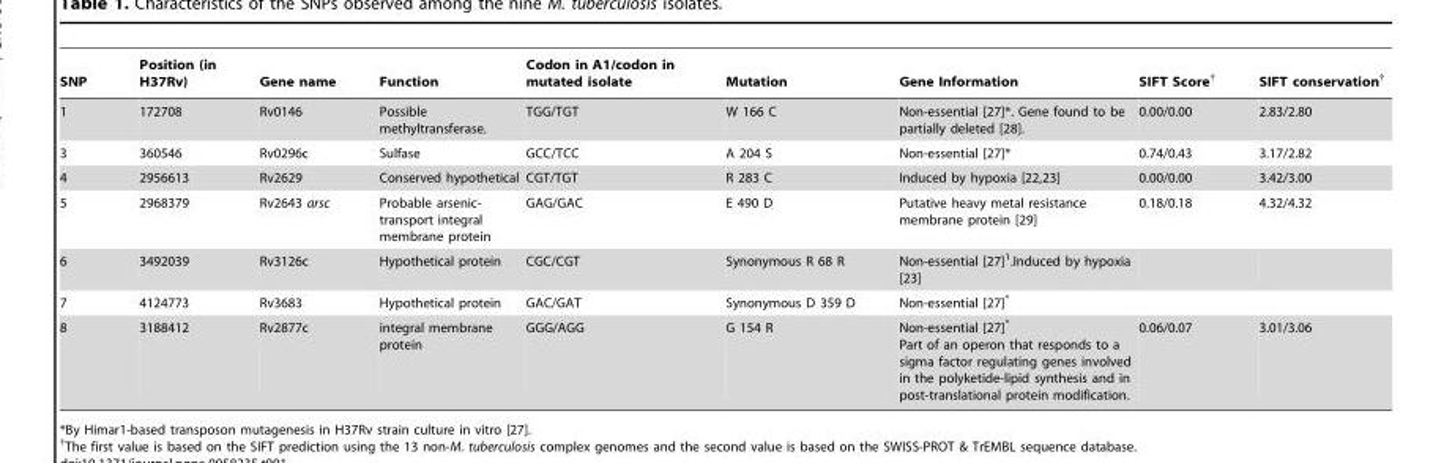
<table><thead><tr><td>SNP</td><td>Position (in H37Rv)</td><td>Gene name</td><td>Function</td><td>Codon in A1/codon in mutated isolate</td><td>Mutation</td><td>Gene Information</td><td>SIFT Score†</td><td>SIFT conservation†</td></tr></thead><tbody><tr><td>1</td><td>172708</td><td>Rv0146</td><td>Possible methyltransferase.</td><td>TGG/TGT</td><td>W 166 C</td><td>Non-essential [27]*. Gene found to be partially deleted [28].</td><td>0.00/0.00</td><td>2.83/2.80</td></tr><tr><td>3</td><td>360546</td><td>Rv0296c</td><td>Sulfase</td><td>GCC/TCC</td><td>A 204 S</td><td>Non-essential [27]*</td><td>0.74/0.43</td><td>3.17/2.82</td></tr><tr><td>4</td><td>2956613</td><td>Rv2629</td><td>Conserved hypothetical</td><td>CGT/TGT</td><td>R 283 C</td><td>Induced by hypoxia [22,23]</td><td>0.00/0.00</td><td>3.42/3.00</td></tr><tr><td>5</td><td>2968379</td><td>Rv2643 arsc</td><td>Probable arsenic- transport integral membrane protein</td><td>GAG/GAC</td><td>E 490 D</td><td>Putative heavy metal resistance membrane protein [29]</td><td>0.18/0.18</td><td>4.32/4.32</td></tr><tr><td>6</td><td>3492039</td><td>Rv3126c</td><td>Hypothetical protein</td><td>CGC/CGT</td><td>Synonymous R 68 R</td><td>Non-essential [27]<sup>1</sup>.Induced by hypoxia [23]</td><td></td><td></td></tr><tr><td>7</td><td>4124773</td><td>Rv3683</td><td>Hypothetical protein</td><td>GAC/GAT</td><td>Synonymous D 359 D</td><td>Non-essential [27]*</td><td></td><td></td></tr><tr><td>8</td><td>3188412</td><td>Rv2877c</td><td>integral membrane protein</td><td>GGG/AGG</td><td>G 154 R</td><td>Non-essential [27]* Part of an operon that responds to a sigma factor regulating genes involved in the polyketide-lipid synthesis and in post-translational protein modification.</td><td>0.06/0.07</td><td>3.01/3.06</td></tr></tbody></table>